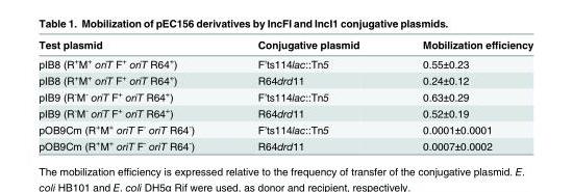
<table><thead><tr><td>Test plasmid</td><td>Conjugative plasmid</td><td>Mobilization efficiency</td></tr></thead><tbody><tr><td>pIB8 (R<sup>+</sup>M<sup>+</sup> oriT F<sup>+</sup> oriT R64<sup>+</sup>)</td><td>F’ts114lac::Tn5</td><td>0.55±0.23</td></tr><tr><td>pIB8 (R<sup>+</sup>M<sup>+</sup> oriT F<sup>+</sup> oriT R64<sup>+</sup>)</td><td>R64drd11</td><td>0.24±0.12</td></tr><tr><td>pIB9 (R<sup>-</sup>M<sup>-</sup> oriT F<sup>+</sup> oriT R64<sup>+</sup>)</td><td>F’ts114lac::Tn5</td><td>0.63±0.29</td></tr><tr><td>pIB9 (R<sup>-</sup>M<sup>-</sup> oriT F<sup>+</sup> oriT R64<sup>+</sup>)</td><td>R64drd11</td><td>0.52±0.19</td></tr><tr><td>pOB9Cm (R<sup>+</sup>M<sup>+</sup> oriT F<sup>-</sup> oriT R64<sup>-</sup>)</td><td>F’ts114lac::Tn5</td><td>0.0001±0.0001</td></tr><tr><td>pOB9Cm (R<sup>+</sup>M<sup>+</sup> oriT F<sup>-</sup> oriT R64<sup>-</sup>)</td><td>R64drd11</td><td>0.0007±0.0002</td></tr></tbody></table>